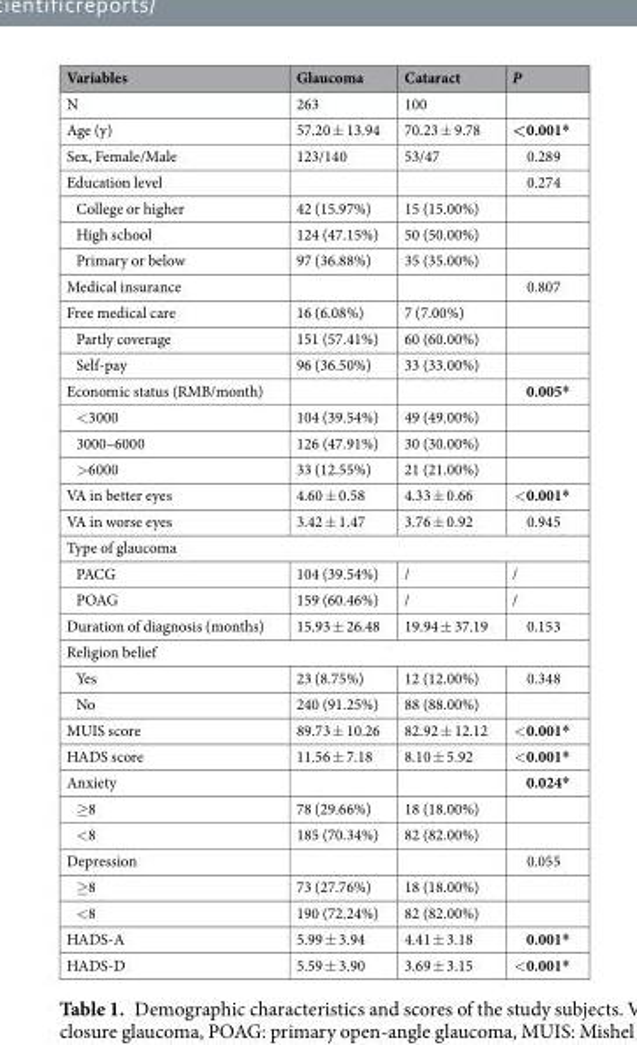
<table><thead><tr><td>Variables</td><td>Glaucoma</td><td>Cataract</td><td>P</td></tr></thead><tbody><tr><td>N</td><td>263</td><td>100</td><td></td></tr><tr><td>Age (y)</td><td>57.20 ± 13.94</td><td>70.23 ± 9.78</td><td>&lt;0.001*</td></tr><tr><td>Sex, Female/Male</td><td>123/140</td><td>53/47</td><td>0.289</td></tr><tr><td>Education level</td><td></td><td></td><td>0.274</td></tr><tr><td>College or higher</td><td>42 (15.97%)</td><td>15 (15.00%)</td><td></td></tr><tr><td>High school</td><td>124 (47.15%)</td><td>50 (50.00%)</td><td></td></tr><tr><td>Primary or below</td><td>97 (36.88%)</td><td>35 (35.00%)</td><td></td></tr><tr><td>Medical insurance</td><td></td><td></td><td>0.807</td></tr><tr><td>Free medical care</td><td>16 (6.08%)</td><td>7 (7.00%)</td><td></td></tr><tr><td>Partly coverage</td><td>151 (57.41%)</td><td>60 (60.00%)</td><td></td></tr><tr><td>Self-pay</td><td>96 (36.50%)</td><td>33 (33.00%)</td><td></td></tr><tr><td>Economic status (RMB/month)</td><td></td><td></td><td>0.005*</td></tr><tr><td>&lt;3000</td><td>104 (39.54%)</td><td>49 (49.00%)</td><td></td></tr><tr><td>3000–6000</td><td>126 (47.91%)</td><td>30 (30.00%)</td><td></td></tr><tr><td>&gt;6000</td><td>33 (12.55%)</td><td>21 (21.00%)</td><td></td></tr><tr><td>VA in better eyes</td><td>4.60 ± 0.58</td><td>4.33 ± 0.66</td><td>&lt;0.001*</td></tr><tr><td>VA in worse eyes</td><td>3.42 ± 1.47</td><td>3.76 ± 0.92</td><td>0.945</td></tr><tr><td colspan="4">Type of glaucoma</td></tr><tr><td>PACG</td><td>104 (39.54%)</td><td>/</td><td>/</td></tr><tr><td>POAG</td><td>159 (60.46%)</td><td>/</td><td>/</td></tr><tr><td>Duration of diagnosis (months)</td><td>15.93 ± 26.48</td><td>19.94 ± 37.19</td><td>0.153</td></tr><tr><td colspan="4">Religion belief</td></tr><tr><td>Yes</td><td>23 (8.75%)</td><td>12 (12.00%)</td><td>0.348</td></tr><tr><td>No</td><td>240 (91.25%)</td><td>88 (88.00%)</td><td></td></tr><tr><td>MUIS score</td><td>89.73 ± 10.26</td><td>82.92 ± 12.12</td><td>&lt;0.001*</td></tr><tr><td>HADS score</td><td>11.56 ± 7.18</td><td>8.10 ± 5.92</td><td>&lt;0.001*</td></tr><tr><td>Anxiety</td><td></td><td></td><td>0.024*</td></tr><tr><td>≥8</td><td>78 (29.66%)</td><td>18 (18.00%)</td><td></td></tr><tr><td>&lt;8</td><td>185 (70.34%)</td><td>82 (82.00%)</td><td></td></tr><tr><td>Depression</td><td></td><td></td><td>0.055</td></tr><tr><td>≥8</td><td>73 (27.76%)</td><td>18 (18.00%)</td><td></td></tr><tr><td>&lt;8</td><td>190 (72.24%)</td><td>82 (82.00%)</td><td></td></tr><tr><td>HADS-A</td><td>5.99 ± 3.94</td><td>4.41 ± 3.18</td><td>0.001*</td></tr><tr><td>HADS-D</td><td>5.59 ± 3.90</td><td>3.69 ± 3.15</td><td>&lt;0.001*</td></tr></tbody></table>